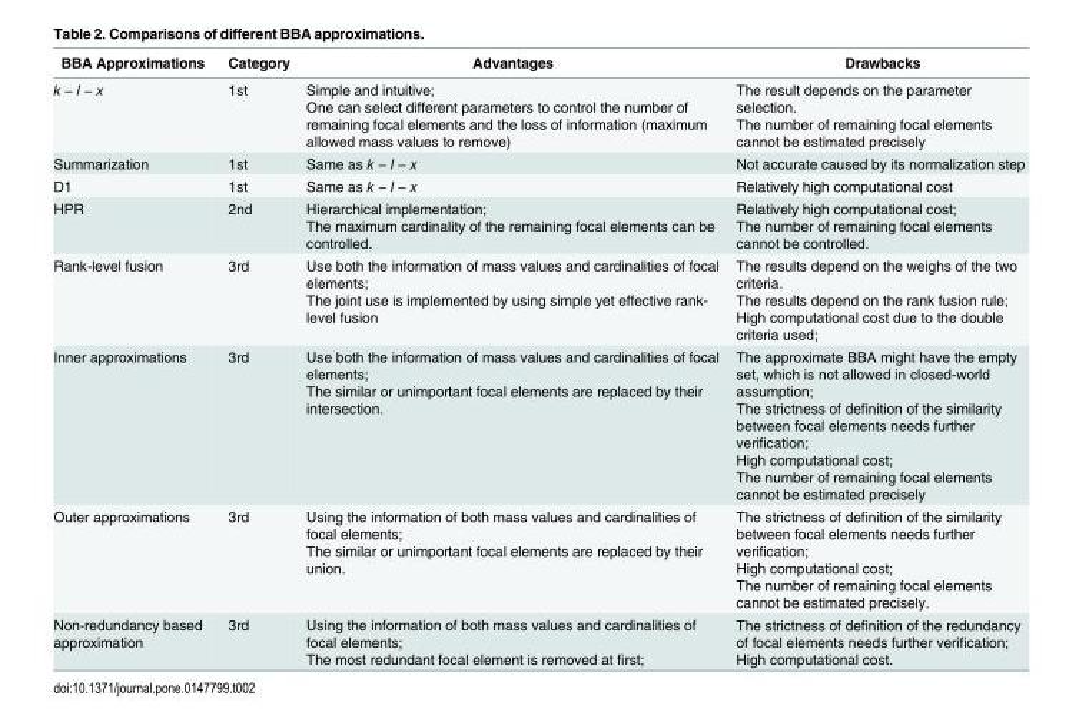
<table><thead><tr><td>BBA Approximations</td><td>Category</td><td>Advantages</td><td>Drawbacks</td></tr></thead><tbody><tr><td>k − l − x</td><td>1st</td><td>Simple and intuitive; One can select different parameters to control the number of remaining focal elements and the loss of information (maximum allowed mass values to remove)</td><td>The result depends on the parameter selection. The number of remaining focal elements cannot be estimated precisely</td></tr><tr><td>Summarization</td><td>1st</td><td>Same as k − l − x</td><td>Not accurate caused by its normalization step</td></tr><tr><td>D1</td><td>1st</td><td>Same as k − l − x</td><td>Relatively high computational cost</td></tr><tr><td>HPR</td><td>2nd</td><td>Hierarchical implementation; The maximum cardinality of the remaining focal elements can be controlled.</td><td>Relatively high computational cost; The number of remaining focal elements cannot be controlled.</td></tr><tr><td>Rank-level fusion</td><td>3rd</td><td>Use both the information of mass values and cardinalities of focal elements; The joint use is implemented by using simple yet effective rank- level fusion</td><td>The results depend on the weighs of the two criteria. The results depend on the rank fusion rule; High computational cost due to the double criteria used;</td></tr><tr><td>Inner approximations</td><td>3rd</td><td>Use both the information of mass values and cardinalities of focal elements; The similar or unimportant focal elements are replaced by their intersection.</td><td>The approximate BBA might have the empty set, which is not allowed in closed-world assumption; The strictness of definition of the similarity between focal elements needs further verification; High computational cost; The number of remaining focal elements cannot be estimated precisely</td></tr><tr><td>Outer approximations</td><td>3rd</td><td>Using the information of both mass values and cardinalities of focal elements; The similar or unimportant focal elements are replaced by their union.</td><td>The strictness of definition of the similarity between focal elements needs further verification; High computational cost; The number of remaining focal elements cannot be estimated precisely.</td></tr><tr><td>Non-redundancy based approximation</td><td>3rd</td><td>Using the information of both mass values and cardinalities of focal elements; The most redundant focal element is removed at first;</td><td>The strictness of definition of the redundancy of focal elements needs further verification; High computational cost.</td></tr></tbody></table>